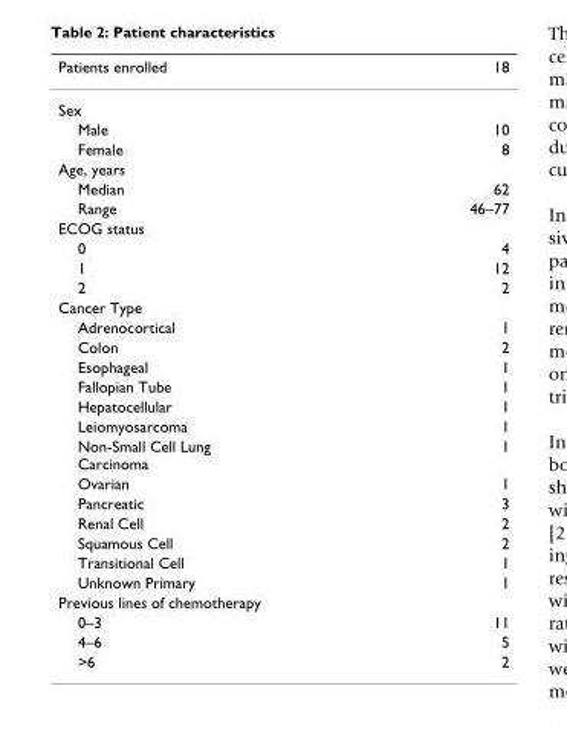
<table><thead><tr><td>Patients enrolled</td><td>18</td></tr></thead><tbody><tr><td colspan="2">Sex</td></tr><tr><td>Male</td><td>10</td></tr><tr><td>Female</td><td>8</td></tr><tr><td colspan="2">Age, years</td></tr><tr><td>Median</td><td>62</td></tr><tr><td>Range</td><td>46–77</td></tr><tr><td colspan="2">ECOG status</td></tr><tr><td>0</td><td>4</td></tr><tr><td>1</td><td>12</td></tr><tr><td>2</td><td>2</td></tr><tr><td colspan="2">Cancer Type</td></tr><tr><td>Adrenocortical</td><td>1</td></tr><tr><td>Colon</td><td>2</td></tr><tr><td>Esophageal</td><td>1</td></tr><tr><td>Fallopian Tube</td><td>1</td></tr><tr><td>Hepatocellular</td><td>1</td></tr><tr><td>Leiomyosarcoma</td><td>1</td></tr><tr><td>Non-Small Cell Lung Carcinoma</td><td>1</td></tr><tr><td>Ovarian</td><td>1</td></tr><tr><td>Pancreatic</td><td>3</td></tr><tr><td>Renal Cell</td><td>2</td></tr><tr><td>Squamous Cell</td><td>2</td></tr><tr><td>Transitional Cell</td><td>1</td></tr><tr><td>Unknown Primary</td><td>1</td></tr><tr><td colspan="2">Previous lines of chemotherapy</td></tr><tr><td>0–3</td><td>11</td></tr><tr><td>4–6</td><td>5</td></tr><tr><td>&gt;6</td><td>2</td></tr></tbody></table>